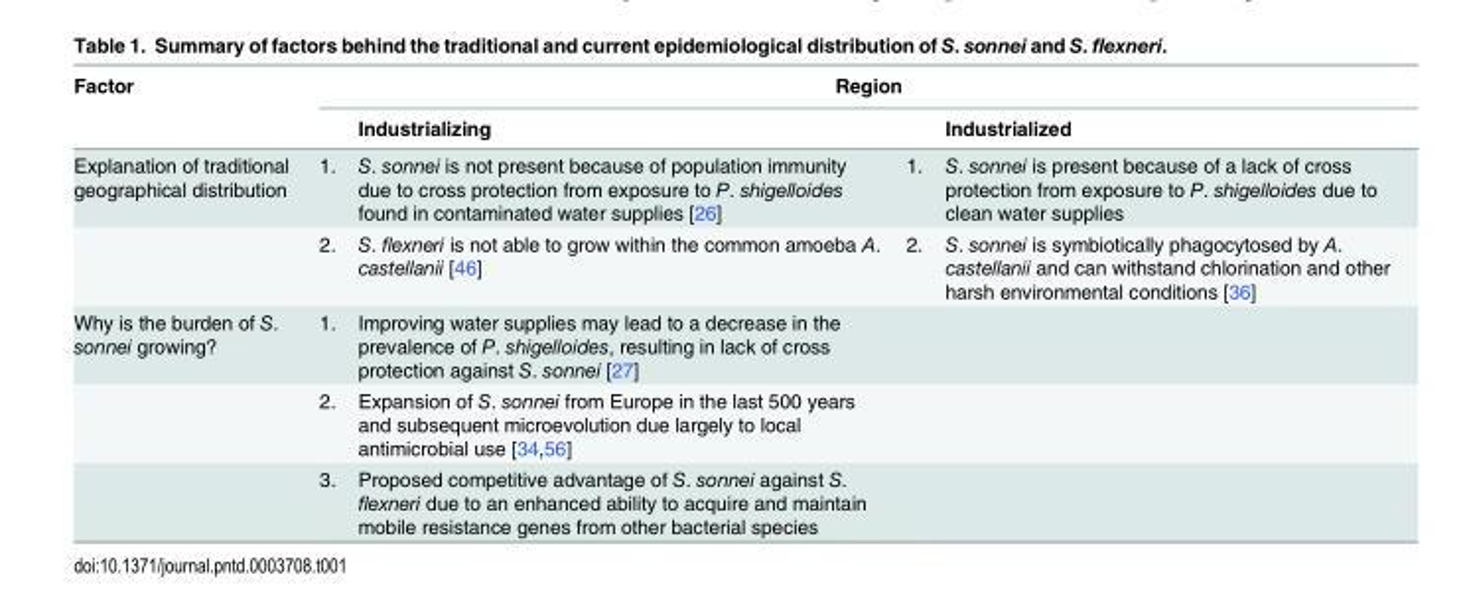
<table><thead><tr><td rowspan="2">Factor</td><td colspan="4">Region</td></tr><tr><td></td><td>Industrializing</td><td></td><td>Industrialized</td></tr></thead><tbody><tr><td rowspan="2">Explanation of traditional geographical distribution</td><td>1.</td><td>S. sonnei is not present because of population immunity due to cross protection from exposure to P. shigelloides found in contaminated water supplies [26]</td><td>1.</td><td>S. sonnei is present because of a lack of cross protection from exposure to P. shigelloides due to clean water supplies</td></tr><tr><td>2.</td><td>S. flexneri is not able to grow within the common amoeba A. castellanii [46]</td><td>2.</td><td>S. sonnei is symbiotically phagocytosed by A. castellanii and can withstand chlorination and other harsh environmental conditions [36]</td></tr><tr><td rowspan="3">Why is the burden of S. sonnei growing?</td><td>1.</td><td>Improving water supplies may lead to a decrease in the prevalence of P. shigelloides, resulting in lack of cross protection against S. sonnei [27]</td><td></td><td></td></tr><tr><td>2.</td><td>Expansion of S. sonnei from Europe in the last 500 years and subsequent microevolution due largely to local antimicrobial use [34,56]</td><td></td><td></td></tr><tr><td>3.</td><td>Proposed competitive advantage of S. sonnei against S. flexneri due to an enhanced ability to acquire and maintain mobile resistance genes from other bacterial species</td><td></td><td></td></tr></tbody></table>